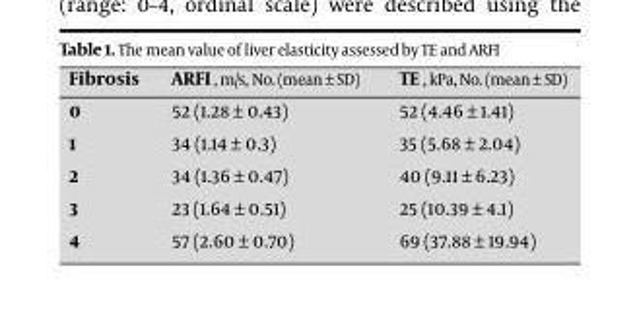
<table><thead><tr><td>Fibrosis</td><td>ARFI , m/s, No. (mean ± SD)</td><td>TE , kPa, No. (mean ± SD)</td></tr></thead><tbody><tr><td>0</td><td>52 (1.28 ± 0.43)</td><td>52 (4.46 ± 1.41)</td></tr><tr><td>1</td><td>34 (1.14 ± 0.3)</td><td>35 (5.68 ± 2.04)</td></tr><tr><td>2</td><td>34 (1.36 ± 0.47)</td><td>40 (9.11 ± 6.23)</td></tr><tr><td>3</td><td>23 (1.64 ± 0.51)</td><td>25 (10.39 ± 4.1)</td></tr><tr><td>4</td><td>57 (2.60 ± 0.70)</td><td>69 (37.88 ± 19.94)</td></tr></tbody></table>